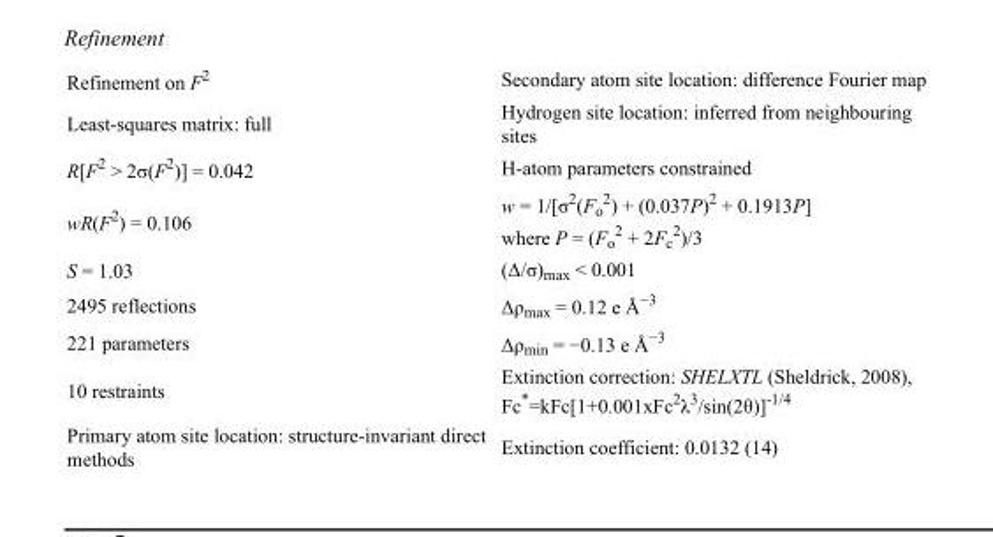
<table><tbody><tr><td>Refinement on F<sup>2</sup></td><td>Secondary atom site location: difference Fourier map</td></tr><tr><td>Least-squares matrix: full</td><td>Hydrogen site location: inferred from neighbouring sites</td></tr><tr><td>R[F<sup>2</sup> &gt; 2σ(F<sup>2</sup>)] = 0.042</td><td>H-atom parameters constrained</td></tr><tr><td>wR(F<sup>2</sup>) = 0.106</td><td>w = 1/[σ<sup>2</sup>(F<sub>o</sub> <sup>2</sup>) + (0.037P)<sup>2</sup> + 0.1913P] where P = (F<sub>o</sub> <sup>2</sup> + 2F<sub>c</sub> <sup>2</sup>)/3</td></tr><tr><td>S = 1.03</td><td>(Δ/σ)<sub>max</sub> &lt; 0.001</td></tr><tr><td>2495 reflections</td><td>Δρ<sub>max</sub> = 0.12 e Å<sup>−3</sup></td></tr><tr><td>221 parameters</td><td>Δρ<sub>min</sub> = −0.13 e Å<sup>−3</sup></td></tr><tr><td>10 restraints</td><td>Extinction correction: SHELXTL (Sheldrick, 2008), Fc*=kFc[1+0.001xFc<sup>2</sup>λ<sup>3</sup>/sin(2θ)]<sup>-1/4</sup></td></tr><tr><td>Primary atom site location: structure-invariant direct methods</td><td>Extinction coefficient: 0.0132 (14)</td></tr></tbody></table>